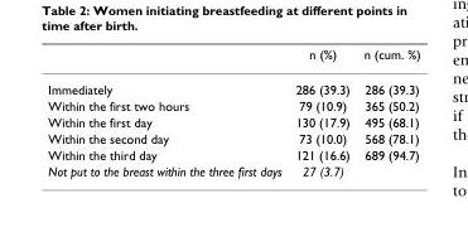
<table><thead><tr><td></td><td>n (%)</td><td>n (cum. %)</td></tr></thead><tbody><tr><td>Immediately</td><td>286 (39.3)</td><td>286 (39.3)</td></tr><tr><td>Within the first two hours</td><td>79 (10.9)</td><td>365 (50.2)</td></tr><tr><td>Within the first day</td><td>130 (17.9)</td><td>495 (68.1)</td></tr><tr><td>Within the second day</td><td>73 (10.0)</td><td>568 (78.1)</td></tr><tr><td>Within the third day</td><td>121 (16.6)</td><td>689 (94.7)</td></tr><tr><td>Not put to the breast within the three first days</td><td>27 (3.7)</td><td></td></tr></tbody></table>